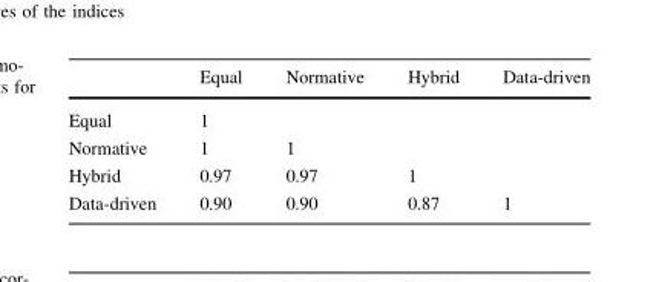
<table><thead><tr><td></td><td>Equal</td><td>Normative</td><td>Hybrid</td><td>Data-driven</td></tr></thead><tbody><tr><td>Equal</td><td>1</td><td></td><td></td><td></td></tr><tr><td>Normative</td><td>1</td><td>1</td><td></td><td></td></tr><tr><td>Hybrid</td><td>0.97</td><td>0.97</td><td>1</td><td></td></tr><tr><td>Data-driven</td><td>0.90</td><td>0.90</td><td>0.87</td><td>1</td></tr></tbody></table>